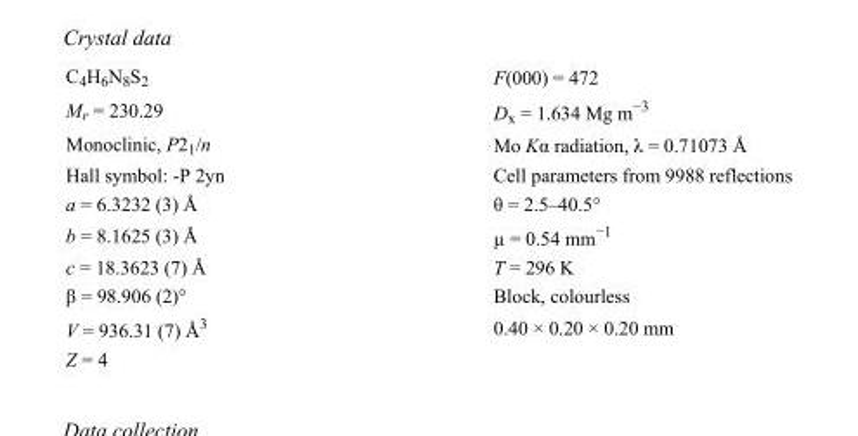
<table><tbody><tr><td>C<sub>4</sub>H<sub>6</sub>N<sub>8</sub>S<sub>2</sub></td><td>F(000) = 472</td></tr><tr><td>M<sub>r</sub> = 230.29</td><td>D<sub>x</sub> = 1.634 Mg m<sup>−3</sup></td></tr><tr><td>Monoclinic, P2<sub>1</sub>/n</td><td>Mo Kα radiation, λ = 0.71073 Å</td></tr><tr><td>Hall symbol: -P 2yn</td><td>Cell parameters from 9988 reflections</td></tr><tr><td>a = 6.3232 (3) Å</td><td>θ = 2.5–40.5°</td></tr><tr><td>b = 8.1625 (3) Å</td><td>µ = 0.54 mm<sup>−1</sup></td></tr><tr><td>c = 18.3623 (7) Å</td><td>T = 296 K</td></tr><tr><td>β = 98.906 (2)°</td><td>Block, colourless</td></tr><tr><td>V = 936.31 (7) Å<sup>3</sup></td><td>0.40 × 0.20 × 0.20 mm</td></tr><tr><td>Z = 4</td><td></td></tr></tbody></table>